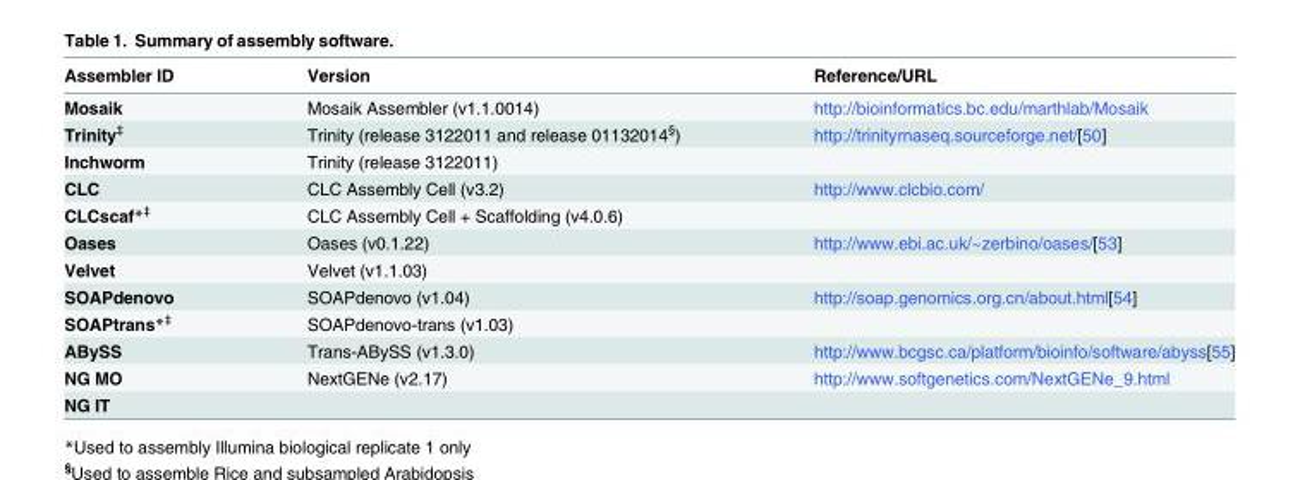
<table><thead><tr><td>Assembler ID</td><td>Version</td><td>Reference/URL</td></tr></thead><tbody><tr><td>Mosaik</td><td>Mosaik Assembler (v1.1.0014)</td><td>http://bioinformatics.bc.edu/marthlab/Mosaik</td></tr><tr><td>Trinity<sup>‡</sup></td><td>Trinity (release 3122011 and release 01132014<sup>§</sup>)</td><td>http://trinityrnaseq.sourceforge.net/[50]</td></tr><tr><td>Inchworm</td><td>Trinity (release 3122011)</td><td></td></tr><tr><td>CLC</td><td>CLC Assembly Cell (v3.2)</td><td>http://www.clcbio.com/</td></tr><tr><td>CLCscaf*<sup>‡</sup></td><td>CLC Assembly Cell + Scaffolding (v4.0.6)</td><td></td></tr><tr><td>Oases</td><td>Oases (v0.1.22)</td><td>http://www.ebi.ac.uk/~zerbino/oases/[53]</td></tr><tr><td>Velvet</td><td>Velvet (v1.1.03)</td><td></td></tr><tr><td>SOAPdenovo</td><td>SOAPdenovo (v1.04)</td><td>http://soap.genomics.org.cn/about.html[54]</td></tr><tr><td>SOAPtrans*<sup>‡</sup></td><td>SOAPdenovo-trans (v1.03)</td><td></td></tr><tr><td>ABySS</td><td>Trans-ABySS (v1.3.0)</td><td>http://www.bcgsc.ca/platform/bioinfo/software/abyss[55]</td></tr><tr><td>NG MO</td><td>NextGENe (v2.17)</td><td>http://www.softgenetics.com/NextGENe_9.html</td></tr><tr><td>NG IT</td><td></td><td></td></tr></tbody></table>